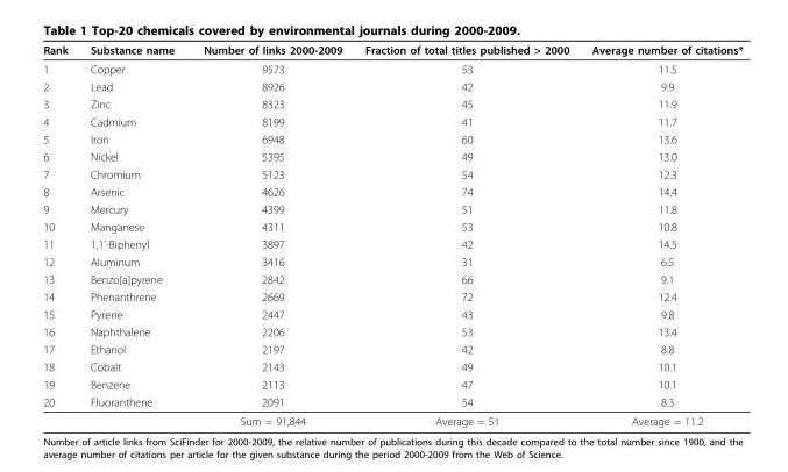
<table><thead><tr><td>Rank</td><td>Substance name</td><td>Number of links 2000-2009</td><td>Fraction of total titles published &gt; 2000</td><td>Average number of citations*</td></tr></thead><tbody><tr><td>1</td><td>Copper</td><td>9573</td><td>53</td><td>11.5</td></tr><tr><td>2</td><td>Lead</td><td>8926</td><td>42</td><td>9.9</td></tr><tr><td>3</td><td>Zinc</td><td>8323</td><td>45</td><td>11.9</td></tr><tr><td>4</td><td>Cadmium</td><td>8199</td><td>41</td><td>11.7</td></tr><tr><td>5</td><td>Iron</td><td>6948</td><td>60</td><td>13.6</td></tr><tr><td>6</td><td>Nickel</td><td>5395</td><td>49</td><td>13.0</td></tr><tr><td>7</td><td>Chromium</td><td>5123</td><td>54</td><td>12.3</td></tr><tr><td>8</td><td>Arsenic</td><td>4626</td><td>74</td><td>14.4</td></tr><tr><td>9</td><td>Mercury</td><td>4399</td><td>51</td><td>11.8</td></tr><tr><td>10</td><td>Manganese</td><td>4311</td><td>53</td><td>10.8</td></tr><tr><td>11</td><td>1,1’-Biphenyl</td><td>3897</td><td>42</td><td>14.5</td></tr><tr><td>12</td><td>Aluminum</td><td>3416</td><td>31</td><td>6.5</td></tr><tr><td>13</td><td>Benzo[a]pyrene</td><td>2842</td><td>66</td><td>9.1</td></tr><tr><td>14</td><td>Phenanthrene</td><td>2669</td><td>72</td><td>12.4</td></tr><tr><td>15</td><td>Pyrene</td><td>2447</td><td>43</td><td>9.8</td></tr><tr><td>16</td><td>Naphthalene</td><td>2206</td><td>53</td><td>13.4</td></tr><tr><td>17</td><td>Ethanol</td><td>2197</td><td>42</td><td>8.8</td></tr><tr><td>18</td><td>Cobalt</td><td>2143</td><td>49</td><td>10.1</td></tr><tr><td>19</td><td>Benzene</td><td>2113</td><td>47</td><td>10.1</td></tr><tr><td rowspan="2">20</td><td>Fluoranthene</td><td>2091</td><td>54</td><td>8.3</td></tr><tr><td></td><td>Sum = 91,844</td><td>Average = 51</td><td>Average = 11.2</td></tr></tbody></table>